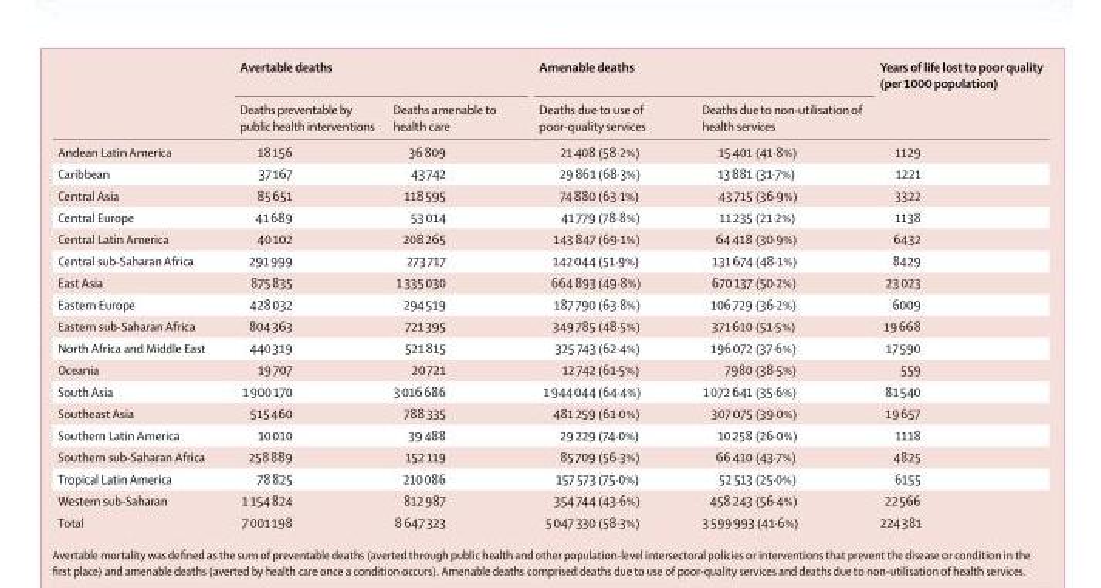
<table><thead><tr><td rowspan="2"></td><td colspan="2">Avertable deaths</td><td colspan="2">Amenable deaths</td><td rowspan="2">Years of life lost to poor quality (per 1000 population)</td></tr><tr><td>Deaths preventable by public health interventions</td><td>Deaths amenable to health care</td><td>Deaths due to use of poor-quality services</td><td>Deaths due to non-utilisation of health services</td></tr></thead><tbody><tr><td>Andean Latin America</td><td>18 156</td><td>36 809</td><td>21 408 (58·2%)</td><td>15 401 (41·8%)</td><td>1129</td></tr><tr><td>Caribbean</td><td>37 167</td><td>43 742</td><td>29 861 (68·3%)</td><td>13 881 (31·7%)</td><td>1221</td></tr><tr><td>Central Asia</td><td>85 651</td><td>118 595</td><td>74 880 (63·1%)</td><td>43 715 (36·9%)</td><td>3322</td></tr><tr><td>Central Europe</td><td>41 689</td><td>53 014</td><td>41 779 (78·8%)</td><td>11 235 (21·2%)</td><td>1138</td></tr><tr><td>Central Latin America</td><td>40 102</td><td>208 265</td><td>143 847 (69·1%)</td><td>64 418 (30·9%)</td><td>6432</td></tr><tr><td>Central sub-Saharan Africa</td><td>291 999</td><td>273 717</td><td>142 044 (51·9%)</td><td>131 674 (48·1%)</td><td>8429</td></tr><tr><td>East Asia</td><td>875 835</td><td>1 335 030</td><td>664 893 (49·8%)</td><td>670 137 (50·2%)</td><td>23 023</td></tr><tr><td>Eastern Europe</td><td>428 032</td><td>294 519</td><td>187 790 (63·8%)</td><td>106 729 (36·2%)</td><td>6009</td></tr><tr><td>Eastern sub-Saharan Africa</td><td>804 363</td><td>721 395</td><td>349 785 (48·5%)</td><td>371 610 (51·5%)</td><td>19 668</td></tr><tr><td>North Africa and Middle East</td><td>440 319</td><td>521 815</td><td>325 743 (62·4%)</td><td>196 072 (37·6%)</td><td>17 590</td></tr><tr><td>Oceania</td><td>19 707</td><td>20 721</td><td>12 742 (61·5%)</td><td>7980 (38·5%)</td><td>559</td></tr><tr><td>South Asia</td><td>1 900 170</td><td>3 016 686</td><td>1 944 044 (64·4%)</td><td>1 072 641 (35·6%)</td><td>81 540</td></tr><tr><td>Southeast Asia</td><td>515 460</td><td>788 335</td><td>481 259 (61·0%)</td><td>307 075 (39·0%)</td><td>19 657</td></tr><tr><td>Southern Latin America</td><td>10 010</td><td>39 488</td><td>29 229 (74·0%)</td><td>10 258 (26·0%)</td><td>1118</td></tr><tr><td>Southern sub-Saharan Africa</td><td>258 889</td><td>152 119</td><td>85 709 (56·3%)</td><td>66 410 (43·7%)</td><td>4825</td></tr><tr><td>Tropical Latin America</td><td>78 825</td><td>210 086</td><td>157 573 (75·0%)</td><td>52 513 (25·0%)</td><td>6155</td></tr><tr><td>Western sub-Saharan</td><td>1 154 824</td><td>812 987</td><td>354 744 (43·6%)</td><td>458 243 (56·4%)</td><td>22 566</td></tr><tr><td>Total</td><td>7 001 198</td><td>8 647 323</td><td>5 047 330 (58·3%)</td><td>3 599 993 (41·6%)</td><td>224 381</td></tr></tbody></table>